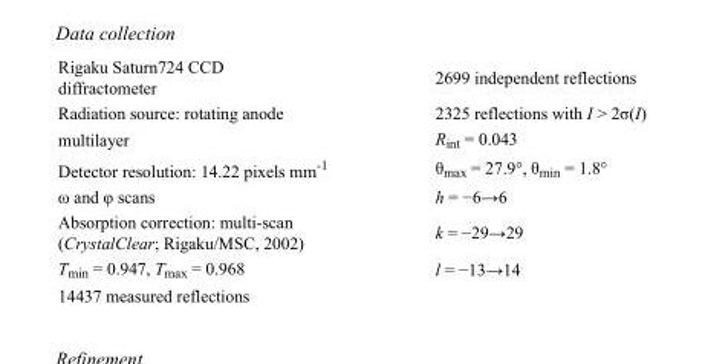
<table><tbody><tr><td>Rigaku Saturn724 CCD diffractometer</td><td>2699 independent reflections</td></tr><tr><td>Radiation source: rotating anode</td><td>2325 reflections with I &gt; 2σ(I)</td></tr><tr><td>multilayer</td><td>R<sub>int</sub> = 0.043</td></tr><tr><td>Detector resolution: 14.22 pixels mm<sup>-1</sup></td><td>θ<sub>max</sub> = 27.9°, θ<sub>min</sub> = 1.8°</td></tr><tr><td>ω and φ scans</td><td>h = −6→6</td></tr><tr><td>Absorption correction: multi-scan (CrystalClear; Rigaku/MSC, 2002)</td><td>k = −29→29</td></tr><tr><td>T<sub>min</sub> = 0.947, T<sub>max</sub> = 0.968</td><td>l = −13→14</td></tr><tr><td>14437 measured reflections</td><td></td></tr></tbody></table>